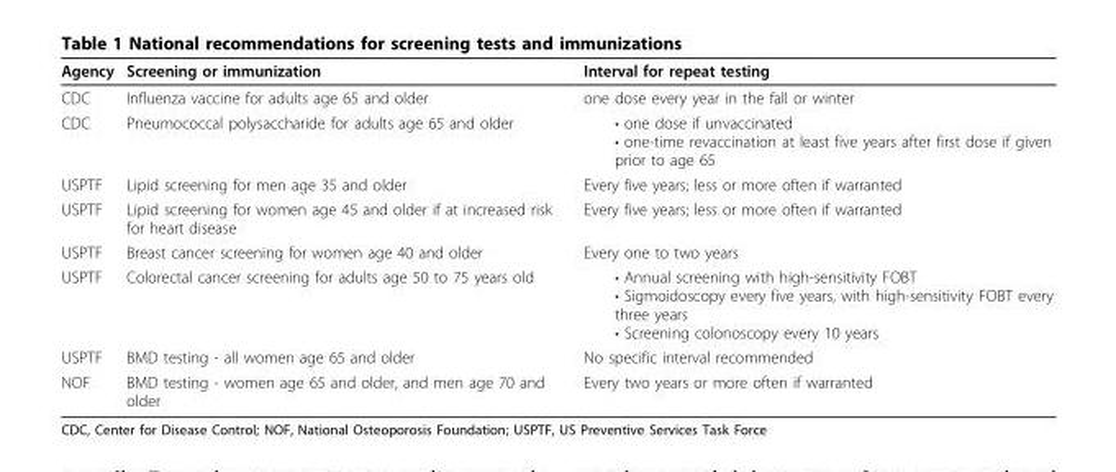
<table><thead><tr><td>Agency</td><td>Screening or immunization</td><td>Interval for repeat testing</td></tr></thead><tbody><tr><td>CDC</td><td>Influenza vaccine for adults age 65 and older</td><td>one dose every year in the fall or winter</td></tr><tr><td>CDC</td><td>Pneumococcal polysaccharide for adults age 65 and older</td><td>• one dose if unvaccinated • one-time revaccination at least five years after first dose if given prior to age 65</td></tr><tr><td>USPTF</td><td>Lipid screening for men age 35 and older</td><td>Every five years; less or more often if warranted</td></tr><tr><td>USPTF</td><td>Lipid screening for women age 45 and older if at increased risk for heart disease</td><td>Every five years; less or more often if warranted</td></tr><tr><td>USPTF</td><td>Breast cancer screening for women age 40 and older</td><td>Every one to two years</td></tr><tr><td>USPTF</td><td>Colorectal cancer screening for adults age 50 to 75 years old</td><td>• Annual screening with high-sensitivity FOBT • Sigmoidoscopy every five years, with high-sensitivity FOBT every three years • Screening colonoscopy every 10 years</td></tr><tr><td>USPTF</td><td>BMD testing - all women age 65 and older</td><td>No specific interval recommended</td></tr><tr><td>NOF</td><td>BMD testing - women age 65 and older, and men age 70 and older</td><td>Every two years or more often if warranted</td></tr></tbody></table>